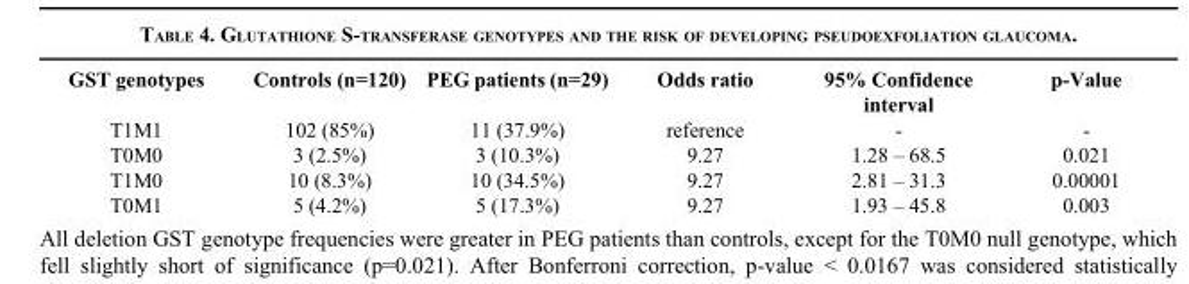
<table><thead><tr><td>GST genotypes</td><td>Controls (n=120)</td><td>PEG patients (n=29)</td><td>Odds ratio</td><td>95% Confidence interval</td><td>p-Value</td></tr></thead><tbody><tr><td>T1M1</td><td>102 (85%)</td><td>11 (37.9%)</td><td>reference</td><td>-</td><td>-</td></tr><tr><td>T0M0</td><td>3 (2.5%)</td><td>3 (10.3%)</td><td>9.27</td><td>1.28 – 68.5</td><td>0.021</td></tr><tr><td>T1M0</td><td>10 (8.3%)</td><td>10 (34.5%)</td><td>9.27</td><td>2.81 – 31.3</td><td>0.00001</td></tr><tr><td>T0M1</td><td>5 (4.2%)</td><td>5 (17.3%)</td><td>9.27</td><td>1.93 – 45.8</td><td>0.003</td></tr></tbody></table>